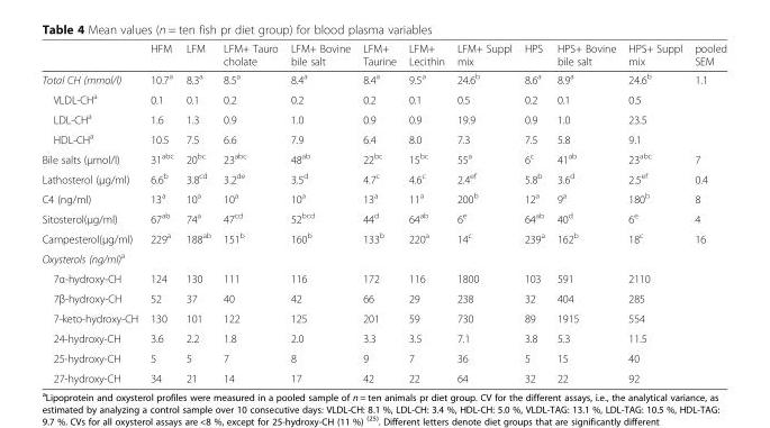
<table><thead><tr><td></td><td>HFM</td><td>LFM</td><td>LFM+ Tauro cholate</td><td>LFM+ Bovine bile salt</td><td>LFM+ Taurine</td><td>LFM+ Lecithin</td><td>LFM+ Suppl mix</td><td>HPS</td><td>HPS+ Bovine bile salt</td><td>HPS+ Suppl mix</td><td>pooled SEM</td></tr></thead><tbody><tr><td>Total CH (mmol/l)</td><td>10.7<sup>a</sup></td><td>8.3<sup>a</sup></td><td>8.5<sup>a</sup></td><td>8.4<sup>a</sup></td><td>8.4<sup>a</sup></td><td>9.5<sup>a</sup></td><td>24.6<sup>b</sup></td><td>8.6<sup>a</sup></td><td>8.9<sup>a</sup></td><td>24.6<sup>b</sup></td><td>1.1</td></tr><tr><td>VLDL-CH<sup>a</sup></td><td>0.1</td><td>0.1</td><td>0.2</td><td>0.2</td><td>0.2</td><td>0.1</td><td>0.5</td><td>0.2</td><td>0.1</td><td>0.5</td><td></td></tr><tr><td>LDL-CH<sup>a</sup></td><td>1.6</td><td>1.3</td><td>0.9</td><td>1.0</td><td>0.9</td><td>0.9</td><td>19.9</td><td>0.9</td><td>1.0</td><td>23.5</td><td></td></tr><tr><td>HDL-CH<sup>a</sup></td><td>10.5</td><td>7.5</td><td>6.6</td><td>7.9</td><td>6.4</td><td>8.0</td><td>7.3</td><td>7.5</td><td>5.8</td><td>9.1</td><td></td></tr><tr><td>Bile salts (μmol/l)</td><td>31<sup>abc</sup></td><td>20<sup>bc</sup></td><td>23<sup>abc</sup></td><td>48<sup>ab</sup></td><td>22<sup>bc</sup></td><td>15<sup>bc</sup></td><td>55<sup>a</sup></td><td>6<sup>c</sup></td><td>41<sup>ab</sup></td><td>23<sup>abc</sup></td><td>7</td></tr><tr><td>Lathosterol (μg/ml)</td><td>6.6<sup>b</sup></td><td>3.8<sup>cd</sup></td><td>3.2<sup>de</sup></td><td>3.5<sup>d</sup></td><td>4.7<sup>c</sup></td><td>4.6<sup>c</sup></td><td>2.4<sup>ef</sup></td><td>5.8<sup>b</sup></td><td>3.6<sup>d</sup></td><td>2.5<sup>ef</sup></td><td>0.4</td></tr><tr><td>C4 (ng/ml)</td><td>13<sup>a</sup></td><td>10<sup>a</sup></td><td>10<sup>a</sup></td><td>10<sup>a</sup></td><td>13<sup>a</sup></td><td>11<sup>a</sup></td><td>200<sup>b</sup></td><td>12<sup>a</sup></td><td>9<sup>a</sup></td><td>180<sup>b</sup></td><td>8</td></tr><tr><td>Sitosterol(μg/ml)</td><td>67<sup>ab</sup></td><td>74<sup>a</sup></td><td>47<sup>cd</sup></td><td>52<sup>bcd</sup></td><td>44<sup>d</sup></td><td>64<sup>ab</sup></td><td>6<sup>e</sup></td><td>64<sup>ab</sup></td><td>40<sup>d</sup></td><td>6<sup>e</sup></td><td>4</td></tr><tr><td>Campesterol(μg/ml)</td><td>229<sup>a</sup></td><td>188<sup>ab</sup></td><td>151<sup>b</sup></td><td>160<sup>b</sup></td><td>133<sup>b</sup></td><td>220<sup>a</sup></td><td>14<sup>c</sup></td><td>239<sup>a</sup></td><td>162<sup>b</sup></td><td>18<sup>c</sup></td><td>16</td></tr><tr><td colspan="12">Oxysterols (ng/ml)<sup>a</sup></td></tr><tr><td>7α-hydroxy-CH</td><td>124</td><td>130</td><td>111</td><td>116</td><td>172</td><td>116</td><td>1800</td><td>103</td><td>591</td><td>2110</td><td></td></tr><tr><td>7β-hydroxy-CH</td><td>52</td><td>37</td><td>40</td><td>42</td><td>66</td><td>29</td><td>238</td><td>32</td><td>404</td><td>285</td><td></td></tr><tr><td>7-keto-hydroxy-CH</td><td>130</td><td>101</td><td>122</td><td>125</td><td>201</td><td>59</td><td>730</td><td>89</td><td>1915</td><td>554</td><td></td></tr><tr><td>24-hydroxy-CH</td><td>3.6</td><td>2.2</td><td>1.8</td><td>2.0</td><td>3.3</td><td>3.5</td><td>7.1</td><td>3.8</td><td>5.3</td><td>11.5</td><td></td></tr><tr><td>25-hydroxy-CH</td><td>5</td><td>5</td><td>7</td><td>8</td><td>9</td><td>7</td><td>36</td><td>5</td><td>15</td><td>40</td><td></td></tr><tr><td>27-hydroxy-CH</td><td>34</td><td>21</td><td>14</td><td>17</td><td>42</td><td>22</td><td>64</td><td>32</td><td>22</td><td>92</td><td></td></tr></tbody></table>